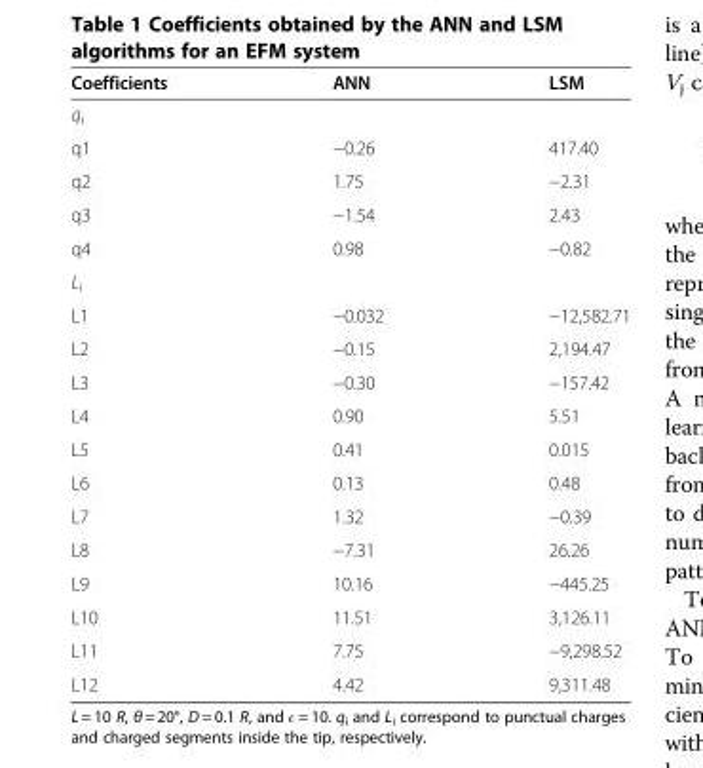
<table><thead><tr><td>Coefficients</td><td>ANN</td><td>LSM</td></tr></thead><tbody><tr><td colspan="3">q<sub>i</sub></td></tr><tr><td>q1</td><td>−0.26</td><td>417.40</td></tr><tr><td>q2</td><td>1.75</td><td>−2.31</td></tr><tr><td>q3</td><td>−1.54</td><td>2.43</td></tr><tr><td>q4</td><td>0.98</td><td>−0.82</td></tr><tr><td colspan="3">L<sub>i</sub></td></tr><tr><td>L1</td><td>−0.032</td><td>−12,582.71</td></tr><tr><td>L2</td><td>−0.15</td><td>2,194.47</td></tr><tr><td>L3</td><td>−0.30</td><td>−157.42</td></tr><tr><td>L4</td><td>0.90</td><td>5.51</td></tr><tr><td>L5</td><td>0.41</td><td>0.015</td></tr><tr><td>L6</td><td>0.13</td><td>0.48</td></tr><tr><td>L7</td><td>1.32</td><td>−0.39</td></tr><tr><td>L8</td><td>−7.31</td><td>26.26</td></tr><tr><td>L9</td><td>10.16</td><td>−445.25</td></tr><tr><td>L10</td><td>11.51</td><td>3,126.11</td></tr><tr><td>L11</td><td>7.75</td><td>−9,298.52</td></tr><tr><td>L12</td><td>4.42</td><td>9,311.48</td></tr></tbody></table>